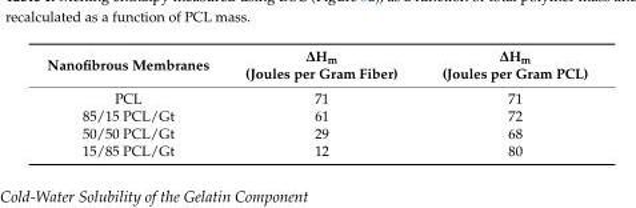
<table><thead><tr><td>Nanofibrous Membranes</td><td>∆H<sub>m</sub> (Joules per Gram Fiber)</td><td>∆H<sub>m</sub> (Joules per Gram PCL)</td></tr></thead><tbody><tr><td>PCL</td><td>71</td><td>71</td></tr><tr><td>85/15 PCL/Gt</td><td>61</td><td>72</td></tr><tr><td>50/50 PCL/Gt</td><td>29</td><td>68</td></tr><tr><td>15/85 PCL/Gt</td><td>12</td><td>80</td></tr></tbody></table>